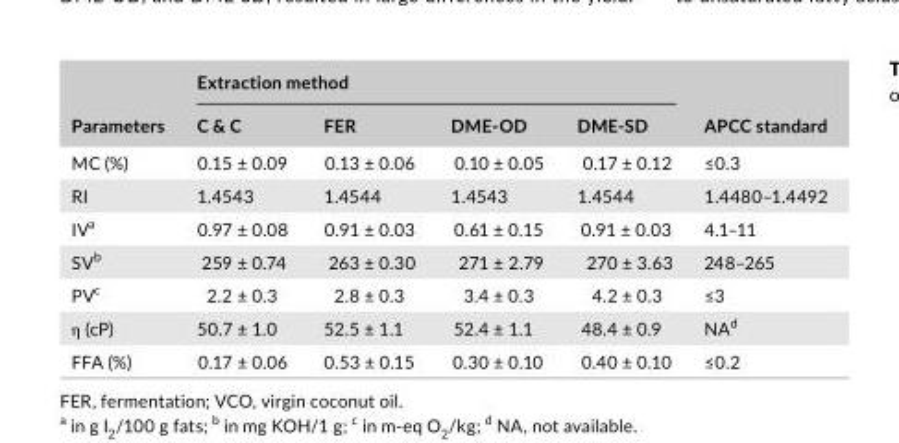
<table><thead><tr><td rowspan="2">Parameters</td><td colspan="4">Extraction method</td><td rowspan="2">APCC standard</td></tr><tr><td>C &amp; C</td><td>FER</td><td>DME- OD</td><td>DME- SD</td></tr></thead><tbody><tr><td>MC (%)</td><td>0.15 ± 0.09</td><td>0.13 ± 0.06</td><td>0.10 ± 0.05</td><td>0.17 ± 0.12</td><td>≤0.3</td></tr><tr><td>RI</td><td>1.4543</td><td>1.4544</td><td>1.4543</td><td>1.4544</td><td>1.4480–1.4492</td></tr><tr><td>IV<sup>a</sup></td><td>0.97 ± 0.08</td><td>0.91 ± 0.03</td><td>0.61 ± 0.15</td><td>0.91 ± 0.03</td><td>4.1–11</td></tr><tr><td>SV<sup>b</sup></td><td>259 ± 0.74</td><td>263 ± 0.30</td><td>271 ± 2.79</td><td>270 ± 3.63</td><td>248–265</td></tr><tr><td>PV<sup>c</sup></td><td>2.2 ± 0.3</td><td>2.8 ± 0.3</td><td>3.4 ± 0.3</td><td>4.2 ± 0.3</td><td>≤3</td></tr><tr><td>η (cP)</td><td>50.7 ± 1.0</td><td>52.5 ± 1.1</td><td>52.4 ± 1.1</td><td>48.4 ± 0.9</td><td>NA<sup>d</sup></td></tr><tr><td>FFA (%)</td><td>0.17 ± 0.06</td><td>0.53 ± 0.15</td><td>0.30 ± 0.10</td><td>0.40 ± 0.10</td><td>≤0.2</td></tr></tbody></table>